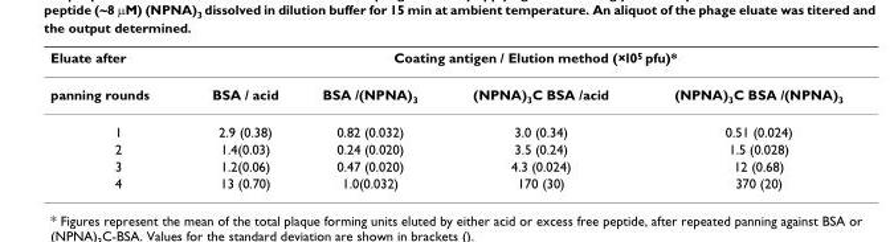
<table><thead><tr><td rowspan="2">Eluate after panning rounds</td><td colspan="4">Coating antigen / Elution method (×l05 pfu)*</td></tr><tr><td>BSA / acid</td><td>BSA /(NPNA)3</td><td>(NPNA)3C BSA /acid</td><td>(NPNA)3C BSA /(NPNA)3</td></tr></thead><tbody><tr><td>1</td><td>2.9 (0.38)</td><td>0.82 (0.032)</td><td>3.0 (0.34)</td><td>0.51 (0.024)</td></tr><tr><td>2</td><td>1.4(0.03)</td><td>0.24 (0.020)</td><td>3.5 (0.24)</td><td>1.5 (0.028)</td></tr><tr><td>3</td><td>1.2(0.06)</td><td>0.47 (0.020)</td><td>4.3 (0.024)</td><td>12 (0.68)</td></tr><tr><td>4</td><td>13 (0.70)</td><td>1.0(0.032)</td><td>170 (30)</td><td>370 (20)</td></tr></tbody></table>